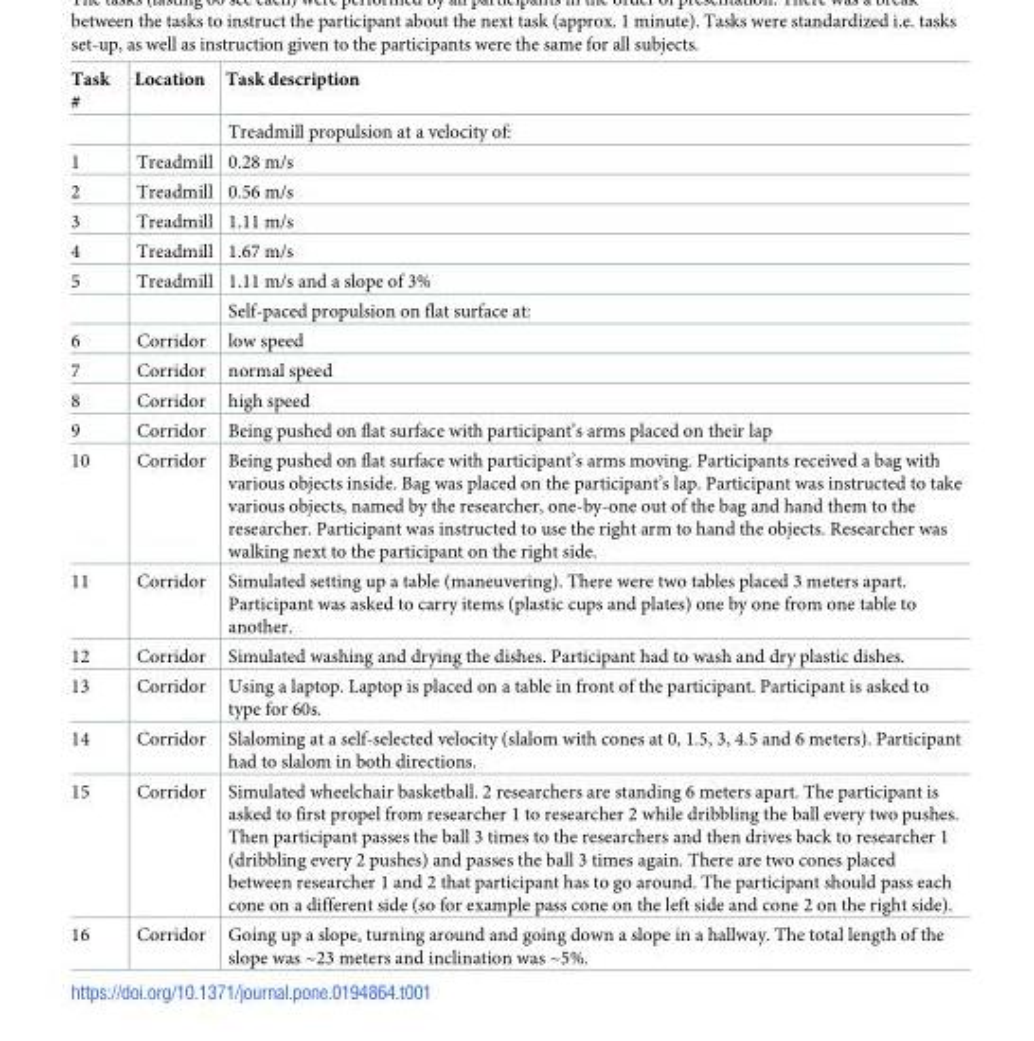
<table><thead><tr><td>Task #</td><td>Location</td><td>Task description</td></tr></thead><tbody><tr><td></td><td></td><td>Treadmill propulsion at a velocity of:</td></tr><tr><td>1</td><td>Treadmill</td><td>0.28 m/s</td></tr><tr><td>2</td><td>Treadmill</td><td>0.56 m/s</td></tr><tr><td>3</td><td>Treadmill</td><td>1.11 m/s</td></tr><tr><td>4</td><td>Treadmill</td><td>1.67 m/s</td></tr><tr><td rowspan="2">5</td><td>Treadmill</td><td>1.11 m/s and a slope of 3%</td></tr><tr><td></td><td>Self-paced propulsion on flat surface at:</td></tr><tr><td>6</td><td>Corridor</td><td>low speed</td></tr><tr><td>7</td><td>Corridor</td><td>normal speed</td></tr><tr><td>8</td><td>Corridor</td><td>high speed</td></tr><tr><td>9</td><td>Corridor</td><td>Being pushed on flat surface with participant’s arms placed on their lap</td></tr><tr><td>10</td><td>Corridor</td><td>Being pushed on flat surface with participant’s arms moving. Participants received a bag with various objects inside. Bag was placed on the participant’s lap. Participant was instructed to take various objects, named by the researcher, one-by-one out of the bag and hand them to the researcher. Participant was instructed to use the right arm to hand the objects. Researcher was walking next to the participant on the right side.</td></tr><tr><td>11</td><td>Corridor</td><td>Simulated setting up a table (maneuvering). There were two tables placed 3 meters apart. Participant was asked to carry items (plastic cups and plates) one by one from one table to another.</td></tr><tr><td>12</td><td>Corridor</td><td>Simulated washing and drying the dishes. Participant had to wash and dry plastic dishes.</td></tr><tr><td>13</td><td>Corridor</td><td>Using a laptop. Laptop is placed on a table in front of the participant. Participant is asked to type for 60s.</td></tr><tr><td>14</td><td>Corridor</td><td>Slaloming at a self-selected velocity (slalom with cones at 0, 1.5, 3, 4.5 and 6 meters). Participant had to slalom in both directions.</td></tr><tr><td>15</td><td>Corridor</td><td>Simulated wheelchair basketball. 2 researchers are standing 6 meters apart. The participant is asked to first propel from researcher 1 to researcher 2 while dribbling the ball every two pushes. Then participant passes the ball 3 times to the researchers and then drives back to researcher 1 (dribbling every 2 pushes) and passes the ball 3 times again. There are two cones placed between researcher 1 and 2 that participant has to go around. The participant should pass each cone on a different side (so for example pass cone on the left side and cone 2 on the right side).</td></tr><tr><td>16</td><td>Corridor</td><td>Going up a slope, turning around and going down a slope in a hallway. The total length of the slope was ~23 meters and inclination was ~5%.</td></tr></tbody></table>